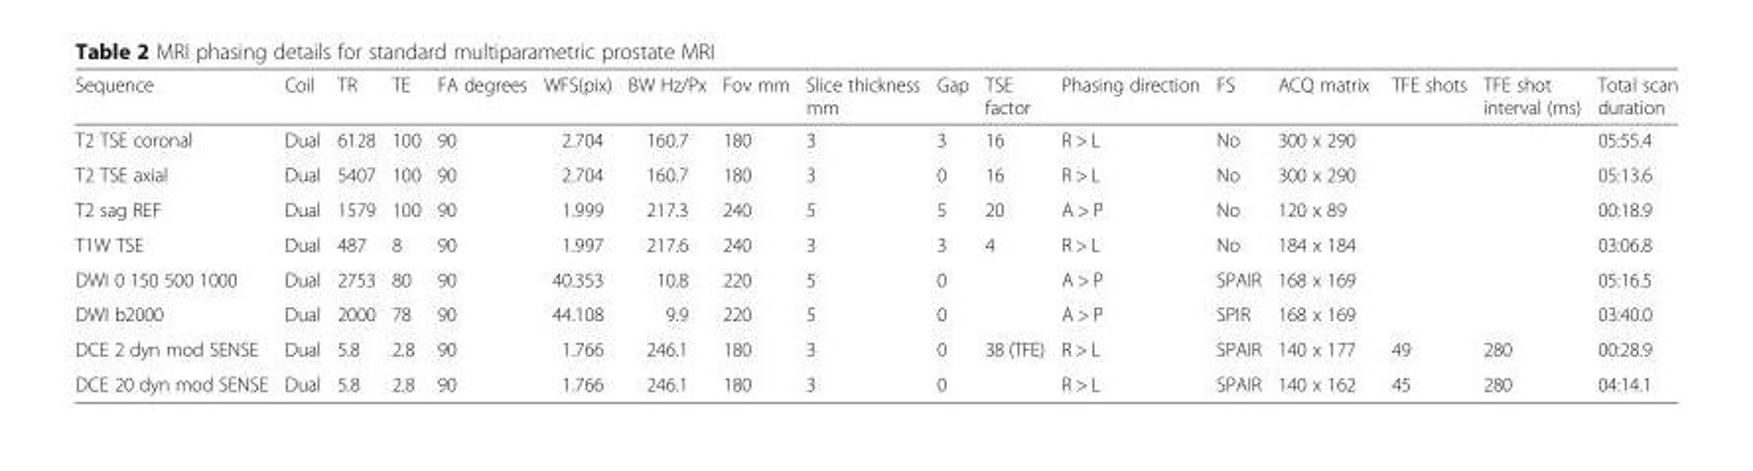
<table><thead><tr><td>Sequence</td><td>Coil</td><td>TR</td><td>TE</td><td>FA degrees</td><td>WFS(pix)</td><td>BW Hz/Px</td><td>Fov mm</td><td>Slice thickness mm</td><td>Gap</td><td>TSE factor</td><td>Phasing direction</td><td>FS</td><td>ACQ matrix</td><td>TFE shots</td><td>TFE shot interval (ms)</td><td>Total scan duration</td></tr></thead><tbody><tr><td>T2 TSE coronal</td><td>Dual</td><td>6128</td><td>100</td><td>90</td><td>2.704</td><td>160.7</td><td>180</td><td>3</td><td>3</td><td>16</td><td>R &gt; L</td><td>No</td><td>300 x 290</td><td></td><td></td><td>05:55.4</td></tr><tr><td>T2 TSE axial</td><td>Dual</td><td>5407</td><td>100</td><td>90</td><td>2.704</td><td>160.7</td><td>180</td><td>3</td><td>0</td><td>16</td><td>R &gt; L</td><td>No</td><td>300 x 290</td><td></td><td></td><td>05:13.6</td></tr><tr><td>T2 sag REF</td><td>Dual</td><td>1579</td><td>100</td><td>90</td><td>1.999</td><td>217.3</td><td>240</td><td>5</td><td>5</td><td>20</td><td>A &gt; P</td><td>No</td><td>120 x 89</td><td></td><td></td><td>00:18.9</td></tr><tr><td>T1W TSE</td><td>Dual</td><td>487</td><td>8</td><td>90</td><td>1.997</td><td>217.6</td><td>240</td><td>3</td><td>3</td><td>4</td><td>R &gt; L</td><td>No</td><td>184 x 184</td><td></td><td></td><td>03:06.8</td></tr><tr><td>DWI 0 150 500 1000</td><td>Dual</td><td>2753</td><td>80</td><td>90</td><td>40.353</td><td>10.8</td><td>220</td><td>5</td><td>0</td><td></td><td>A &gt; P</td><td>SPAIR</td><td>168 x 169</td><td></td><td></td><td>05:16.5</td></tr><tr><td>DWI b2000</td><td>Dual</td><td>2000</td><td>78</td><td>90</td><td>44.108</td><td>9.9</td><td>220</td><td>5</td><td>0</td><td></td><td>A &gt; P</td><td>SPIR</td><td>168 x 169</td><td></td><td></td><td>03:40.0</td></tr><tr><td>DCE 2 dyn mod SENSE</td><td>Dual</td><td>5.8</td><td>2.8</td><td>90</td><td>1.766</td><td>246.1</td><td>180</td><td>3</td><td>0</td><td>38 (TFE)</td><td>R &gt; L</td><td>SPAIR</td><td>140 x 177</td><td>49</td><td>280</td><td>00:28.9</td></tr><tr><td>DCE 20 dyn mod SENSE</td><td>Dual</td><td>5.8</td><td>2.8</td><td>90</td><td>1.766</td><td>246.1</td><td>180</td><td>3</td><td>0</td><td></td><td>R &gt; L</td><td>SPAIR</td><td>140 x 162</td><td>45</td><td>280</td><td>04:14.1</td></tr></tbody></table>